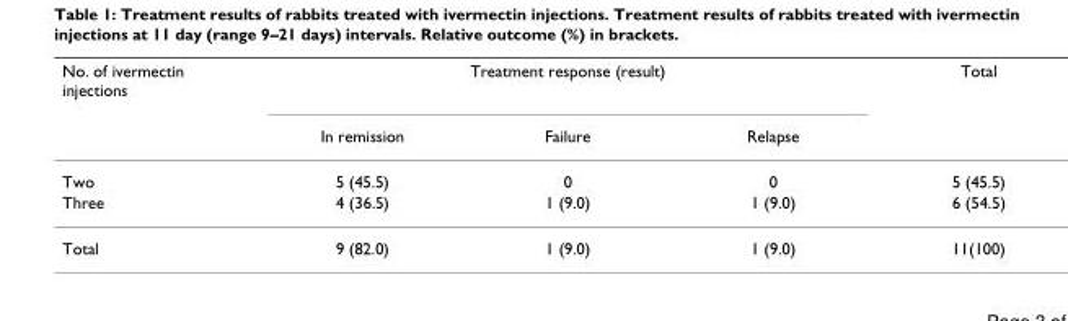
<table><thead><tr><td rowspan="2">No. of ivermectin injections</td><td colspan="3">Treatment response (result)</td><td rowspan="2">Total</td></tr><tr><td>In remission</td><td>Failure</td><td>Relapse</td></tr></thead><tbody><tr><td>Two</td><td>5 (45.5)</td><td>0</td><td>0</td><td>5 (45.5)</td></tr><tr><td>Three</td><td>4 (36.5)</td><td>1 (9.0)</td><td>1 (9.0)</td><td>6 (54.5)</td></tr><tr><td>Total</td><td>9 (82.0)</td><td>1 (9.0)</td><td>1 (9.0)</td><td>11(100)</td></tr></tbody></table>